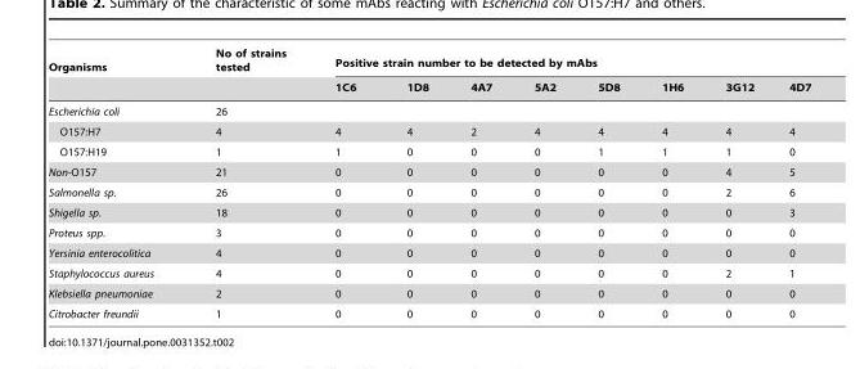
<table><thead><tr><td rowspan="2">Organisms</td><td rowspan="2">No of strains tested</td><td colspan="8">Positive strain number to be detected by mAbs</td></tr><tr><td>1C6</td><td>1D8</td><td>4A7</td><td>5A2</td><td>5D8</td><td>1H6</td><td>3G12</td><td>4D7</td></tr></thead><tbody><tr><td>Escherichia coli</td><td>26</td><td></td><td></td><td></td><td></td><td></td><td></td><td></td><td></td></tr><tr><td>O157:H7</td><td>4</td><td>4</td><td>4</td><td>2</td><td>4</td><td>4</td><td>4</td><td>4</td><td>4</td></tr><tr><td>O157:H19</td><td>1</td><td>1</td><td>0</td><td>0</td><td>0</td><td>1</td><td>1</td><td>1</td><td>0</td></tr><tr><td>Non-O157</td><td>21</td><td>0</td><td>0</td><td>0</td><td>0</td><td>0</td><td>0</td><td>4</td><td>5</td></tr><tr><td>Salmonella sp.</td><td>26</td><td>0</td><td>0</td><td>0</td><td>0</td><td>0</td><td>0</td><td>2</td><td>6</td></tr><tr><td>Shigella sp.</td><td>18</td><td>0</td><td>0</td><td>0</td><td>0</td><td>0</td><td>0</td><td>0</td><td>3</td></tr><tr><td>Proteus spp.</td><td>3</td><td>0</td><td>0</td><td>0</td><td>0</td><td>0</td><td>0</td><td>0</td><td>0</td></tr><tr><td>Yersinia enterocolitica</td><td>4</td><td>0</td><td>0</td><td>0</td><td>0</td><td>0</td><td>0</td><td>0</td><td>0</td></tr><tr><td>Staphylococcus aureus</td><td>4</td><td>0</td><td>0</td><td>0</td><td>0</td><td>0</td><td>0</td><td>2</td><td>1</td></tr><tr><td>Klebsiella pneumoniae</td><td>2</td><td>0</td><td>0</td><td>0</td><td>0</td><td>0</td><td>0</td><td>0</td><td>0</td></tr><tr><td>Citrobacter freundii</td><td>1</td><td>0</td><td>0</td><td>0</td><td>0</td><td>0</td><td>0</td><td>0</td><td>0</td></tr></tbody></table>